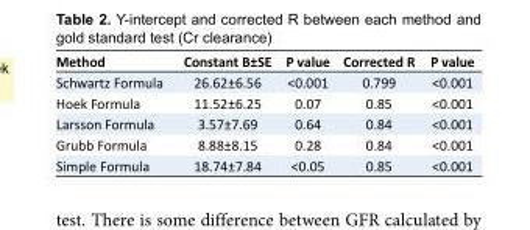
<table><tbody><tr><td>Method</td><td>Constant B±SE</td><td>P value</td><td>Corrected R</td><td>P value</td></tr><tr><td>Schwartz Formula</td><td>26.62±6.56</td><td>&lt;0.001</td><td>0.799</td><td>&lt;0.001</td></tr><tr><td>Hoek Formula</td><td>11.52±6.25</td><td>0.07</td><td>0.85</td><td>&lt;0.001</td></tr><tr><td>Larsson Formula</td><td>3.57±7.69</td><td>0.64</td><td>0.84</td><td>&lt;0.001</td></tr><tr><td>Grubb Formula</td><td>8.88±8.15</td><td>0.28</td><td>0.84</td><td>&lt;0.001</td></tr><tr><td>Simple Formula</td><td>18.74±7.84</td><td>&lt;0.05</td><td>0.85</td><td>&lt;0.001</td></tr></tbody></table>